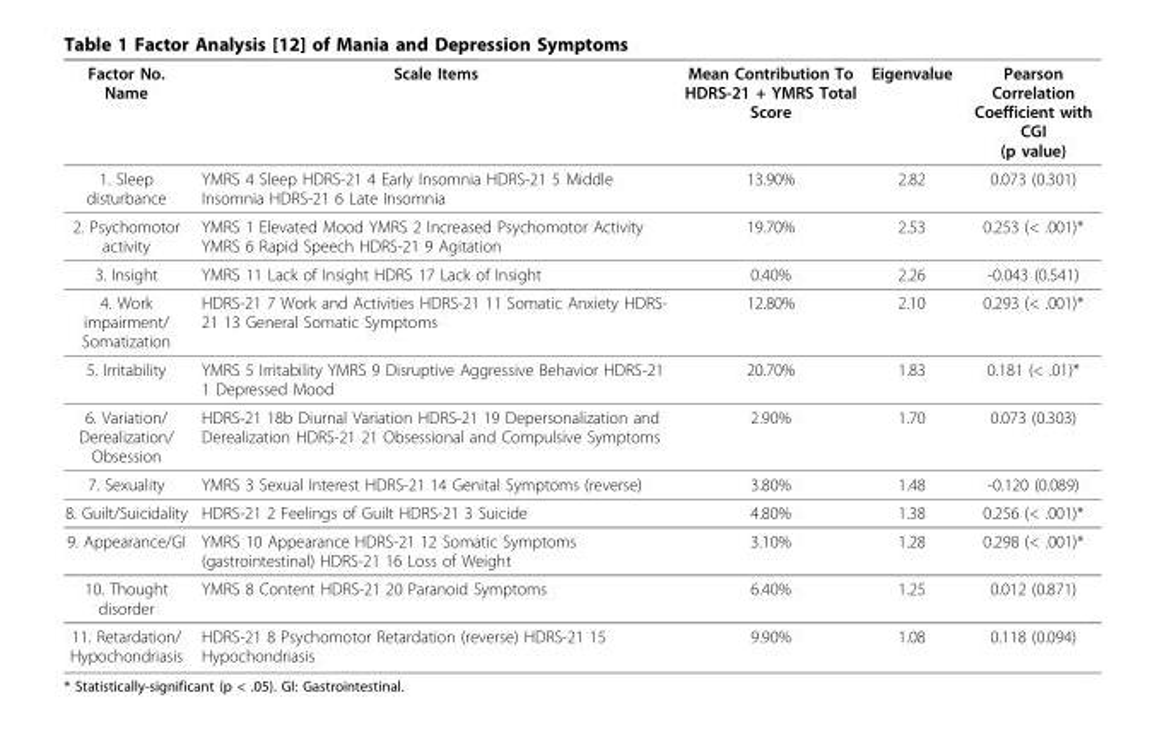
<table><thead><tr><td>Factor No. Name</td><td>Scale Items</td><td>Mean Contribution To HDRS-21 + YMRS Total Score</td><td>Eigenvalue</td><td>Pearson Correlation Coefficient with CGI (p value)</td></tr></thead><tbody><tr><td>1. Sleep disturbance</td><td>YMRS 4 Sleep HDRS-21 4 Early Insomnia HDRS-21 5 Middle Insomnia HDRS-21 6 Late Insomnia</td><td>13.90%</td><td>2.82</td><td>0.073 (0.301)</td></tr><tr><td>2. Psychomotor activity</td><td>YMRS 1 Elevated Mood YMRS 2 Increased Psychomotor Activity YMRS 6 Rapid Speech HDRS-21 9 Agitation</td><td>19.70%</td><td>2.53</td><td>0.253 (&lt; .001)*</td></tr><tr><td>3. Insight</td><td>YMRS 11 Lack of Insight HDRS 17 Lack of Insight</td><td>0.40%</td><td>2.26</td><td>-0.043 (0.541)</td></tr><tr><td>4. Work impairment/ Somatization</td><td>HDRS-21 7 Work and Activities HDRS-21 11 Somatic Anxiety HDRS- 21 13 General Somatic Symptoms</td><td>12.80%</td><td>2.10</td><td>0.293 (&lt; .001)*</td></tr><tr><td>5. Irritability</td><td>YMRS 5 Irritability YMRS 9 Disruptive Aggressive Behavior HDRS-21 1 Depressed Mood</td><td>20.70%</td><td>1.83</td><td>0.181 (&lt; .01)*</td></tr><tr><td>6. Variation/ Derealization/ Obsession</td><td>HDRS-21 18b Diurnal Variation HDRS-21 19 Depersonalization and Derealization HDRS-21 21 Obsessional and Compulsive Symptoms</td><td>2.90%</td><td>1.70</td><td>0.073 (0.303)</td></tr><tr><td>7. Sexuality</td><td>YMRS 3 Sexual Interest HDRS-21 14 Genital Symptoms (reverse)</td><td>3.80%</td><td>1.48</td><td>-0.120 (0.089)</td></tr><tr><td>8. Guilt/Suicidality</td><td>HDRS-21 2 Feelings of Guilt HDRS-21 3 Suicide</td><td>4.80%</td><td>1.38</td><td>0.256 (&lt; .001)*</td></tr><tr><td>9. Appearance/GI</td><td>YMRS 10 Appearance HDRS-21 12 Somatic Symptoms (gastrointestinal) HDRS-21 16 Loss of Weight</td><td>3.10%</td><td>1.28</td><td>0.298 (&lt; .001)*</td></tr><tr><td>10. Thought disorder</td><td>YMRS 8 Content HDRS-21 20 Paranoid Symptoms</td><td>6.40%</td><td>1.25</td><td>0.012 (0.871)</td></tr><tr><td>11. Retardation/ Hypochondriasis</td><td>HDRS-21 8 Psychomotor Retardation (reverse) HDRS-21 15 Hypochondriasis</td><td>9.90%</td><td>1.08</td><td>0.118 (0.094)</td></tr></tbody></table>